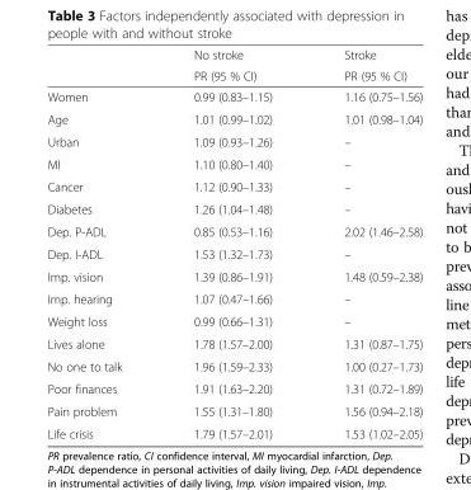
<table><thead><tr><td rowspan="2"></td><td rowspan="2">No stroke PR (95 % CI)</td><td rowspan="2">Stroke PR (95 % CI)</td></tr><tr></tr></thead><tbody><tr><td>Women</td><td>0.99 (0.83–1.15)</td><td>1.16 (0.75–1.56)</td></tr><tr><td>Age</td><td>1.01 (0.99–1.02)</td><td>1.01 (0.98–1.04)</td></tr><tr><td>Urban</td><td>1.09 (0.93–1.26)</td><td>–</td></tr><tr><td>MI</td><td>1.10 (0.80–1.40)</td><td>–</td></tr><tr><td>Cancer</td><td>1.12 (0.90–1.33)</td><td>–</td></tr><tr><td>Diabetes</td><td>1.26 (1.04–1.48)</td><td>–</td></tr><tr><td>Dep. P-ADL</td><td>0.85 (0.53–1.16)</td><td>2.02 (1.46–2.58)</td></tr><tr><td>Dep. I-ADL</td><td>1.53 (1.32–1.73)</td><td>–</td></tr><tr><td>Imp. vision</td><td>1.39 (0.86–1.91)</td><td>1.48 (0.59–2.38)</td></tr><tr><td>Imp. hearing</td><td>1.07 (0.47–1.66)</td><td>–</td></tr><tr><td>Weight loss</td><td>0.99 (0.66–1.31)</td><td>–</td></tr><tr><td>Lives alone</td><td>1.78 (1.57–2.00)</td><td>1.31 (0.87–1.75)</td></tr><tr><td>No one to talk</td><td>1.96 (1.59–2.33)</td><td>1.00 (0.27–1.73)</td></tr><tr><td>Poor finances</td><td>1.91 (1.63–2.20)</td><td>1.31 (0.72–1.89)</td></tr><tr><td>Pain problem</td><td>1.55 (1.31–1.80)</td><td>1.56 (0.94–2.18)</td></tr><tr><td>Life crisis</td><td>1.79 (1.57–2.01)</td><td>1.53 (1.02–2.05)</td></tr></tbody></table>